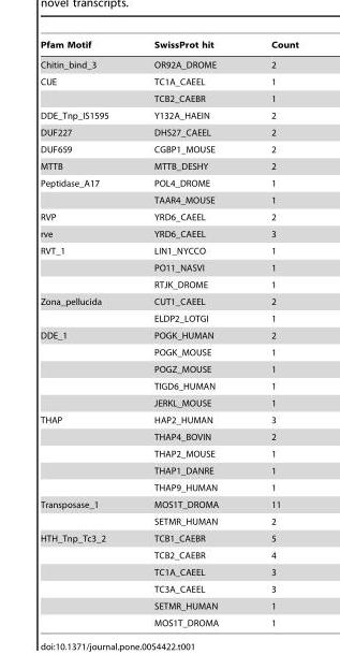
<table><thead><tr><td>Pfam Motif</td><td>SwissProt hit</td><td>Count</td></tr></thead><tbody><tr><td>Chitin_bind_3</td><td>OR92A_DROME</td><td>2</td></tr><tr><td rowspan="2">CUE</td><td>TC1A_CAEEL</td><td>1</td></tr><tr><td>TCB2_CAEBR</td><td>1</td></tr><tr><td>DDE_Tnp_IS1595</td><td>Y132A_HAEIN</td><td>2</td></tr><tr><td>DUF227</td><td>DHS27_CAEEL</td><td>2</td></tr><tr><td>DUF659</td><td>CGBP1_MOUSE</td><td>2</td></tr><tr><td>MTTB</td><td>MTTB_DESHY</td><td>2</td></tr><tr><td rowspan="2">Peptidase_A17</td><td>POL4_DROME</td><td>1</td></tr><tr><td>TAAR4_MOUSE</td><td>1</td></tr><tr><td>RVP</td><td>YRD6_CAEEL</td><td>2</td></tr><tr><td>rve</td><td>YRD6_CAEEL</td><td>3</td></tr><tr><td rowspan="3">RVT_1</td><td>LIN1_NYCCO</td><td>1</td></tr><tr><td>PO11_NASVI</td><td>1</td></tr><tr><td>RTJK_DROME</td><td>1</td></tr><tr><td rowspan="2">Zona_pellucida</td><td>CUT1_CAEEL</td><td>2</td></tr><tr><td>ELDP2_LOTGI</td><td>1</td></tr><tr><td rowspan="5">DDE_1</td><td>POGK_HUMAN</td><td>2</td></tr><tr><td>POGK_MOUSE</td><td>1</td></tr><tr><td>POGZ_MOUSE</td><td>1</td></tr><tr><td>TIGD6_HUMAN</td><td>1</td></tr><tr><td>JERKL_MOUSE</td><td>1</td></tr><tr><td rowspan="5">THAP</td><td>HAP2_HUMAN</td><td>3</td></tr><tr><td>THAP4_BOVIN</td><td>2</td></tr><tr><td>THAP2_MOUSE</td><td>1</td></tr><tr><td>THAP1_DANRE</td><td>1</td></tr><tr><td>THAP9_HUMAN</td><td>1</td></tr><tr><td rowspan="2">Transposase_1</td><td>MOS1T_DROMA</td><td>11</td></tr><tr><td>SETMR_HUMAN</td><td>2</td></tr><tr><td rowspan="6">HTH_Tnp_Tc3_2</td><td>TCB1_CAEBR</td><td>5</td></tr><tr><td>TCB2_CAEBR</td><td>4</td></tr><tr><td>TC1A_CAEEL</td><td>3</td></tr><tr><td>TC3A_CAEEL</td><td>3</td></tr><tr><td>SETMR_HUMAN</td><td>1</td></tr><tr><td>MOS1T_DROMA</td><td>1</td></tr></tbody></table>